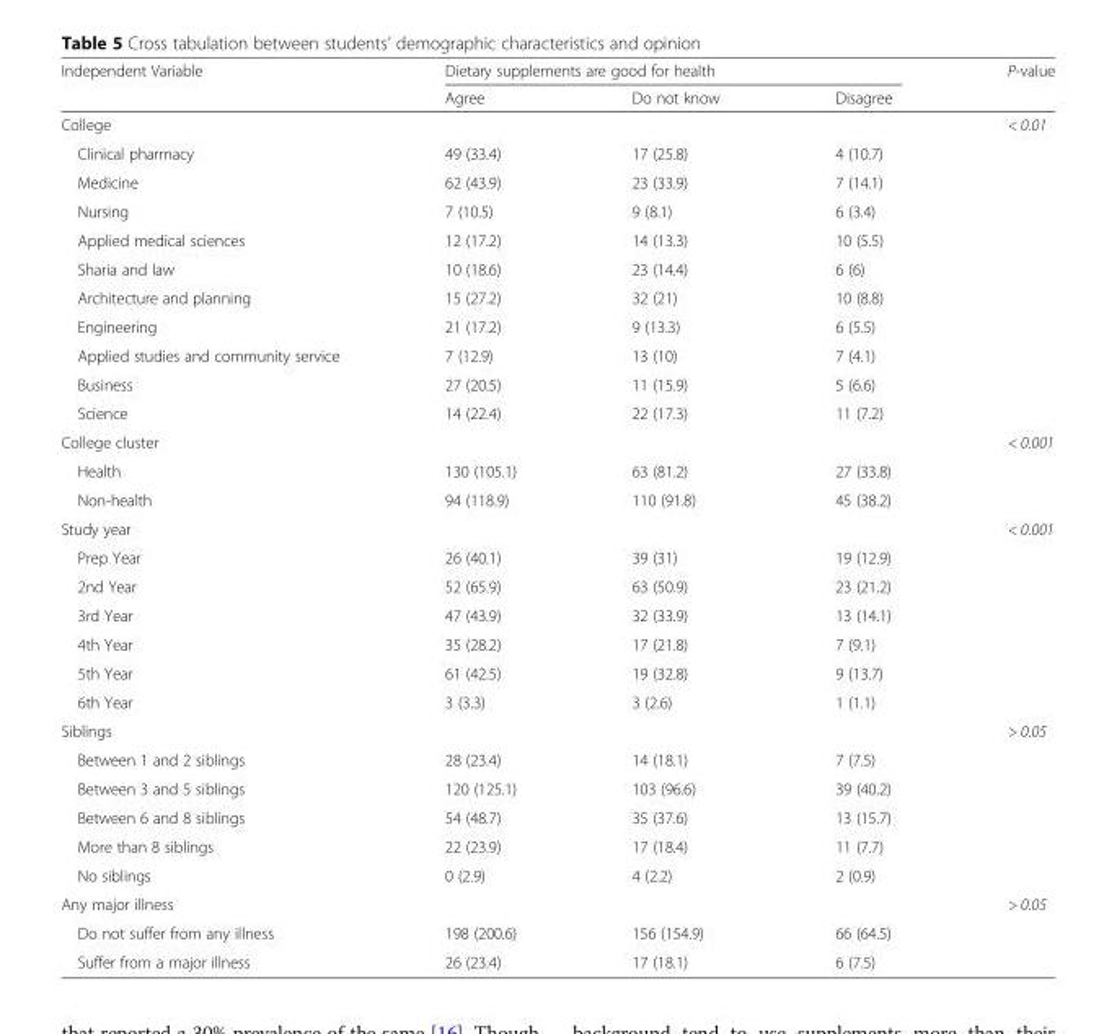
<table><thead><tr><td rowspan="2">Independent Variable</td><td colspan="3">Dietary supplements are good for health</td><td rowspan="2">P-value</td></tr><tr><td>Agree</td><td>Do not know</td><td>Disagree</td></tr></thead><tbody><tr><td>College</td><td></td><td></td><td></td><td>&lt; 0.01</td></tr><tr><td>Clinical pharmacy</td><td>49 (33.4)</td><td>17 (25.8)</td><td>4 (10.7)</td><td></td></tr><tr><td>Medicine</td><td>62 (43.9)</td><td>23 (33.9)</td><td>7 (14.1)</td><td></td></tr><tr><td>Nursing</td><td>7 (10.5)</td><td>9 (8.1)</td><td>6 (3.4)</td><td></td></tr><tr><td>Applied medical sciences</td><td>12 (17.2)</td><td>14 (13.3)</td><td>10 (5.5)</td><td></td></tr><tr><td>Sharia and law</td><td>10 (18.6)</td><td>23 (14.4)</td><td>6 (6)</td><td></td></tr><tr><td>Architecture and planning</td><td>15 (27.2)</td><td>32 (21)</td><td>10 (8.8)</td><td></td></tr><tr><td>Engineering</td><td>21 (17.2)</td><td>9 (13.3)</td><td>6 (5.5)</td><td></td></tr><tr><td>Applied studies and community service</td><td>7 (12.9)</td><td>13 (10)</td><td>7 (4.1)</td><td></td></tr><tr><td>Business</td><td>27 (20.5)</td><td>11 (15.9)</td><td>5 (6.6)</td><td></td></tr><tr><td>Science</td><td>14 (22.4)</td><td>22 (17.3)</td><td>11 (7.2)</td><td></td></tr><tr><td>College cluster</td><td></td><td></td><td></td><td>&lt; 0.001</td></tr><tr><td>Health</td><td>130 (105.1)</td><td>63 (81.2)</td><td>27 (33.8)</td><td></td></tr><tr><td>Non-health</td><td>94 (118.9)</td><td>110 (91.8)</td><td>45 (38.2)</td><td></td></tr><tr><td>Study year</td><td></td><td></td><td></td><td>&lt; 0.001</td></tr><tr><td>Prep Year</td><td>26 (40.1)</td><td>39 (31)</td><td>19 (12.9)</td><td></td></tr><tr><td>2nd Year</td><td>52 (65.9)</td><td>63 (50.9)</td><td>23 (21.2)</td><td></td></tr><tr><td>3rd Year</td><td>47 (43.9)</td><td>32 (33.9)</td><td>13 (14.1)</td><td></td></tr><tr><td>4th Year</td><td>35 (28.2)</td><td>17 (21.8)</td><td>7 (9.1)</td><td></td></tr><tr><td>5th Year</td><td>61 (42.5)</td><td>19 (32.8)</td><td>9 (13.7)</td><td></td></tr><tr><td>6th Year</td><td>3 (3.3)</td><td>3 (2.6)</td><td>1 (1.1)</td><td></td></tr><tr><td>Siblings</td><td></td><td></td><td></td><td>&gt; 0.05</td></tr><tr><td>Between 1 and 2 siblings</td><td>28 (23.4)</td><td>14 (18.1)</td><td>7 (7.5)</td><td></td></tr><tr><td>Between 3 and 5 siblings</td><td>120 (125.1)</td><td>103 (96.6)</td><td>39 (40.2)</td><td></td></tr><tr><td>Between 6 and 8 siblings</td><td>54 (48.7)</td><td>35 (37.6)</td><td>13 (15.7)</td><td></td></tr><tr><td>More than 8 siblings</td><td>22 (23.9)</td><td>17 (18.4)</td><td>11 (7.7)</td><td></td></tr><tr><td>No siblings</td><td>0 (2.9)</td><td>4 (2.2)</td><td>2 (0.9)</td><td></td></tr><tr><td>Any major illness</td><td></td><td></td><td></td><td>&gt; 0.05</td></tr><tr><td>Do not suffer from any illness</td><td>198 (200.6)</td><td>156 (154.9)</td><td>66 (64.5)</td><td></td></tr><tr><td>Suffer from a major illness</td><td>26 (23.4)</td><td>17 (18.1)</td><td>6 (7.5)</td><td></td></tr></tbody></table>